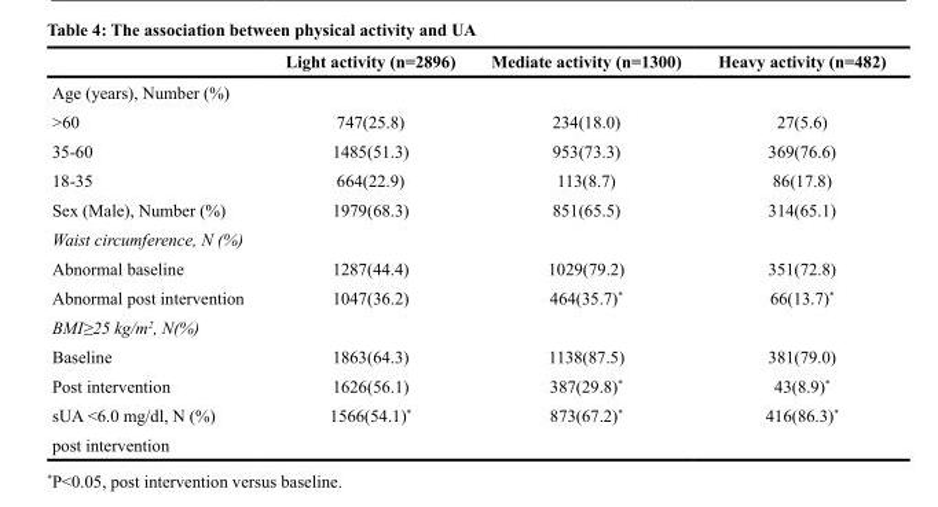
<table><thead><tr><td></td><td>Light activity (n=2896)</td><td>Mediate activity (n=1300)</td><td>Heavy activity (n=482)</td></tr></thead><tbody><tr><td colspan="4">Age (years), Number (%)</td></tr><tr><td>&gt;60</td><td>747(25.8)</td><td>234(18.0)</td><td>27(5.6)</td></tr><tr><td>35-60</td><td>1485(51.3)</td><td>953(73.3)</td><td>369(76.6)</td></tr><tr><td>18-35</td><td>664(22.9)</td><td>113(8.7)</td><td>86(17.8)</td></tr><tr><td>Sex (Male), Number (%)</td><td>1979(68.3)</td><td>851(65.5)</td><td>314(65.1)</td></tr><tr><td colspan="4">Waist circumference, N (%)</td></tr><tr><td>Abnormal baseline</td><td>1287(44.4)</td><td>1029(79.2)</td><td>351(72.8)</td></tr><tr><td>Abnormal post intervention</td><td>1047(36.2)</td><td>464(35.7)*</td><td>66(13.7)*</td></tr><tr><td colspan="4">BMI≥25 kg/m<sup>2</sup>, N(%)</td></tr><tr><td>Baseline</td><td>1863(64.3)</td><td>1138(87.5)</td><td>381(79.0)</td></tr><tr><td>Post intervention</td><td>1626(56.1)</td><td>387(29.8)*</td><td>43(8.9)*</td></tr><tr><td>sUA &lt;6.0 mg/dl, N (%)</td><td>1566(54.1)*</td><td>873(67.2)*</td><td>416(86.3)*</td></tr><tr><td>post intervention</td><td></td><td></td><td></td></tr></tbody></table>